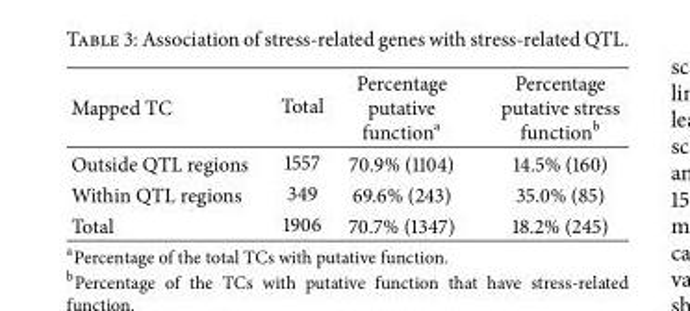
<table><thead><tr><td>Mapped TC</td><td>Total</td><td>Percentage putative function<sup>a</sup></td><td>Percentage putative stress function<sup>b</sup></td></tr></thead><tbody><tr><td>Outside QTL regions</td><td>1557</td><td>70.9% (1104)</td><td>14.5% (160)</td></tr><tr><td>Within QTL regions</td><td>349</td><td>69.6% (243)</td><td>35.0% (85)</td></tr><tr><td>Total</td><td>1906</td><td>70.7% (1347)</td><td>18.2% (245)</td></tr></tbody></table>